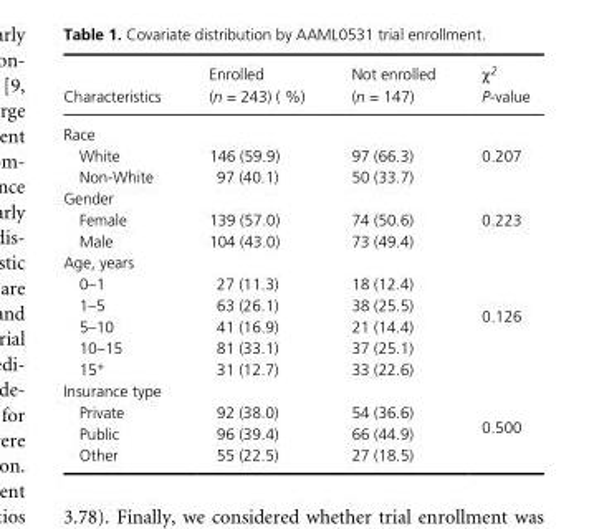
<table><thead><tr><td>Characteristics</td><td>Enrolled (n = 243) ( %)</td><td>Not enrolled (n = 147)</td><td>χ<sup>2</sup> P- value</td></tr></thead><tbody><tr><td colspan="3">Race</td><td rowspan="3">0.207</td></tr><tr><td>White</td><td>146 (59.9)</td><td>97 (66.3)</td></tr><tr><td>Non- White</td><td>97 (40.1)</td><td>50 (33.7)</td></tr><tr><td colspan="3">Gender</td><td rowspan="3">0.223</td></tr><tr><td>Female</td><td>139 (57.0)</td><td>74 (50.6)</td></tr><tr><td>Male</td><td>104 (43.0)</td><td>73 (49.4)</td></tr><tr><td colspan="3">Age, years</td><td rowspan="6">0.126</td></tr><tr><td>0–1</td><td>27 (11.3)</td><td>18 (12.4)</td></tr><tr><td>1–5</td><td>63 (26.1)</td><td>38 (25.5)</td></tr><tr><td>5–10</td><td>41 (16.9)</td><td>21 (14.4)</td></tr><tr><td>10–15</td><td>81 (33.1)</td><td>37 (25.1)</td></tr><tr><td>15<sup>+</sup></td><td>31 (12.7)</td><td>33 (22.6)</td></tr><tr><td colspan="3">Insurance type</td><td rowspan="4">0.500</td></tr><tr><td>Private</td><td>92 (38.0)</td><td>54 (36.6)</td></tr><tr><td>Public</td><td>96 (39.4)</td><td>66 (44.9)</td></tr><tr><td>Other</td><td>55 (22.5)</td><td>27 (18.5)</td></tr></tbody></table>